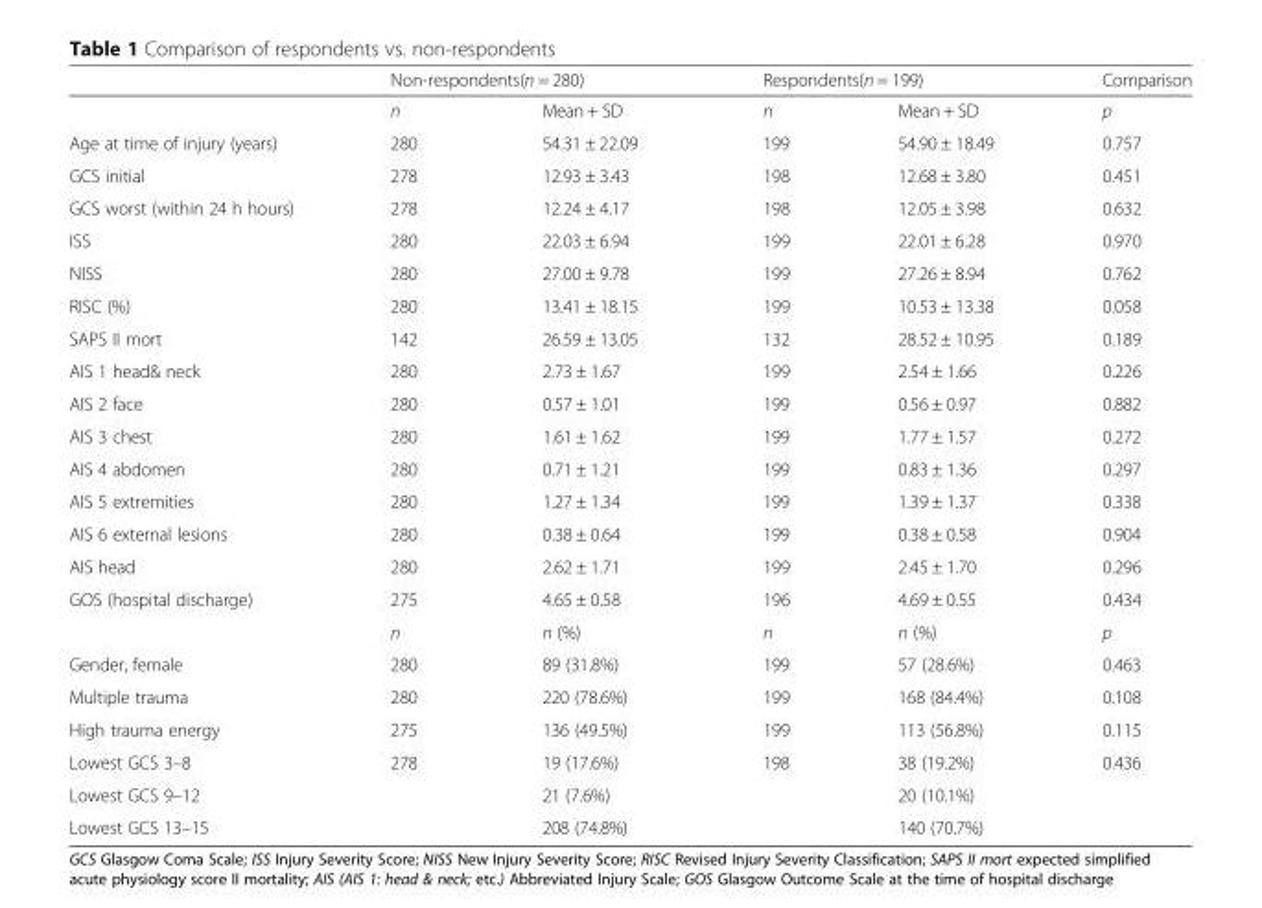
<table><thead><tr><td rowspan="2"></td><td colspan="2">Non-respondents(n = 280)</td><td colspan="2">Respondents(n = 199)</td><td rowspan="2">Comparison p</td></tr><tr><td>n</td><td>Mean + SD</td><td>n</td><td>Mean + SD</td></tr></thead><tbody><tr><td>Age at time of injury (years)</td><td>280</td><td>54.31 ± 22.09</td><td>199</td><td>54.90 ± 18.49</td><td>0.757</td></tr><tr><td>GCS initial</td><td>278</td><td>12.93 ± 3.43</td><td>198</td><td>12.68 ± 3.80</td><td>0.451</td></tr><tr><td>GCS worst (within 24 h hours)</td><td>278</td><td>12.24 ± 4.17</td><td>198</td><td>12.05 ± 3.98</td><td>0.632</td></tr><tr><td>ISS</td><td>280</td><td>22.03 ± 6.94</td><td>199</td><td>22.01 ± 6.28</td><td>0.970</td></tr><tr><td>NISS</td><td>280</td><td>27.00 ± 9.78</td><td>199</td><td>27.26 ± 8.94</td><td>0.762</td></tr><tr><td>RISC (%)</td><td>280</td><td>13.41 ± 18.15</td><td>199</td><td>10.53 ± 13.38</td><td>0.058</td></tr><tr><td>SAPS II mort</td><td>142</td><td>26.59 ± 13.05</td><td>132</td><td>28.52 ± 10.95</td><td>0.189</td></tr><tr><td>AIS 1 head&amp; neck</td><td>280</td><td>2.73 ± 1.67</td><td>199</td><td>2.54 ± 1.66</td><td>0.226</td></tr><tr><td>AIS 2 face</td><td>280</td><td>0.57 ± 1.01</td><td>199</td><td>0.56 ± 0.97</td><td>0.882</td></tr><tr><td>AIS 3 chest</td><td>280</td><td>1.61 ± 1.62</td><td>199</td><td>1.77 ± 1.57</td><td>0.272</td></tr><tr><td>AIS 4 abdomen</td><td>280</td><td>0.71 ± 1.21</td><td>199</td><td>0.83 ± 1.36</td><td>0.297</td></tr><tr><td>AIS 5 extremities</td><td>280</td><td>1.27 ± 1.34</td><td>199</td><td>1.39 ± 1.37</td><td>0.338</td></tr><tr><td>AIS 6 external lesions</td><td>280</td><td>0.38 ± 0.64</td><td>199</td><td>0.38 ± 0.58</td><td>0.904</td></tr><tr><td>AIS head</td><td>280</td><td>2.62 ± 1.71</td><td>199</td><td>2.45 ± 1.70</td><td>0.296</td></tr><tr><td rowspan="2">GOS (hospital discharge)</td><td>275</td><td>4.65 ± 0.58</td><td>196</td><td>4.69 ± 0.55</td><td>0.434</td></tr><tr><td>n</td><td>n (%)</td><td>n</td><td>n (%)</td><td>p</td></tr><tr><td>Gender, female</td><td>280</td><td>89 (31.8%)</td><td>199</td><td>57 (28.6%)</td><td>0.463</td></tr><tr><td>Multiple trauma</td><td>280</td><td>220 (78.6%)</td><td>199</td><td>168 (84.4%)</td><td>0.108</td></tr><tr><td>High trauma energy</td><td>275</td><td>136 (49.5%)</td><td>199</td><td>113 (56.8%)</td><td>0.115</td></tr><tr><td>Lowest GCS 3–8</td><td>278</td><td>19 (17.6%)</td><td>198</td><td>38 (19.2%)</td><td>0.436</td></tr><tr><td>Lowest GCS 9–12</td><td></td><td>21 (7.6%)</td><td></td><td>20 (10.1%)</td><td></td></tr><tr><td>Lowest GCS 13–15</td><td></td><td>208 (74.8%)</td><td></td><td>140 (70.7%)</td><td></td></tr></tbody></table>